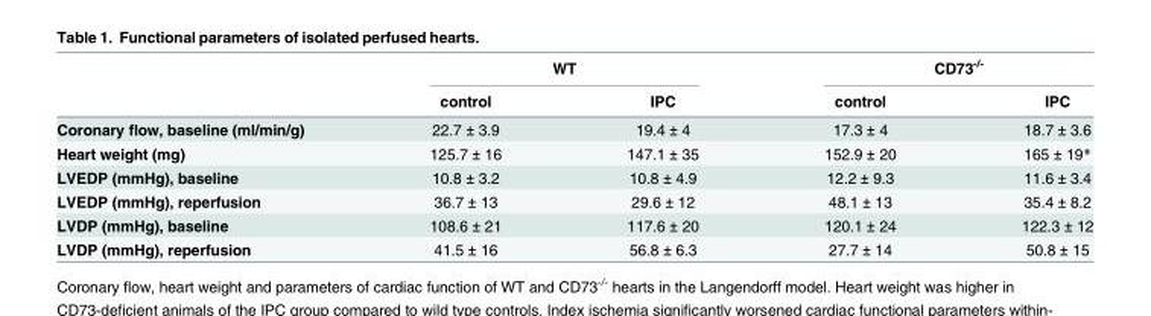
<table><thead><tr><td rowspan="2"></td><td colspan="2">WT</td><td colspan="2">CD73<sup>-/-</sup></td></tr><tr><td>control</td><td>IPC</td><td>control</td><td>IPC</td></tr></thead><tbody><tr><td>Coronary flow, baseline (ml/min/g)</td><td>22.7 ± 3.9</td><td>19.4 ± 4</td><td>17.3 ± 4</td><td>18.7 ± 3.6</td></tr><tr><td>Heart weight (mg)</td><td>125.7 ± 16</td><td>147.1 ± 35</td><td>152.9 ± 20</td><td>165 ± 19*</td></tr><tr><td>LVEDP (mmHg), baseline</td><td>10.8 ± 3.2</td><td>10.8 ± 4.9</td><td>12.2 ± 9.3</td><td>11.6 ± 3.4</td></tr><tr><td>LVEDP (mmHg), reperfusion</td><td>36.7 ± 13</td><td>29.6 ± 12</td><td>48.1 ± 13</td><td>35.4 ± 8.2</td></tr><tr><td>LVDP (mmHg), baseline</td><td>108.6 ± 21</td><td>117.6 ± 20</td><td>120.1 ± 24</td><td>122.3 ± 12</td></tr><tr><td>LVDP (mmHg), reperfusion</td><td>41.5 ± 16</td><td>56.8 ± 6.3</td><td>27.7 ± 14</td><td>50.8 ± 15</td></tr></tbody></table>